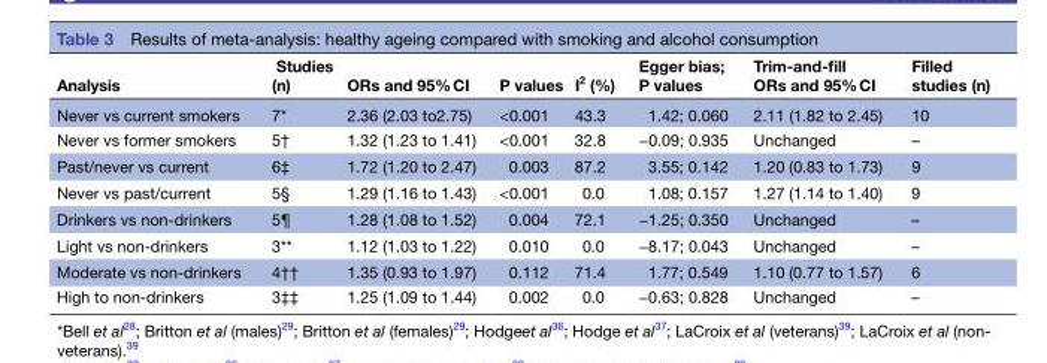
<table><thead><tr><td>Analysis</td><td>Studies (n)</td><td>ORs and 95% CI</td><td>P values</td><td>I<sup>2</sup> (%)</td><td>Egger bias; P values</td><td>Trim-and-fill ORs and 95% CI</td><td>Filled studies (n)</td></tr></thead><tbody><tr><td>Never vs current smokers</td><td>7*</td><td>2.36 (2.03 to2.75)</td><td>&lt;0.001</td><td>43.3</td><td>1.42; 0.060</td><td>2.11 (1.82 to 2.45)</td><td>10</td></tr><tr><td>Never vs former smokers</td><td>5†</td><td>1.32 (1.23 to 1.41)</td><td>&lt;0.001</td><td>32.8</td><td>−0.09; 0.935</td><td>Unchanged</td><td>–</td></tr><tr><td>Past/never vs current</td><td>6‡</td><td>1.72 (1.20 to 2.47)</td><td>0.003</td><td>87.2</td><td>3.55; 0.142</td><td>1.20 (0.83 to 1.73)</td><td>9</td></tr><tr><td>Never vs past/current</td><td>5§</td><td>1.29 (1.16 to 1.43)</td><td>&lt;0.001</td><td>0.0</td><td>1.08; 0.157</td><td>1.27 (1.14 to 1.40)</td><td>9</td></tr><tr><td>Drinkers vs non-drinkers</td><td>5¶</td><td>1.28 (1.08 to 1.52)</td><td>0.004</td><td>72.1</td><td>−1.25; 0.350</td><td>Unchanged</td><td>–</td></tr><tr><td>Light vs non-drinkers</td><td>3**</td><td>1.12 (1.03 to 1.22)</td><td>0.010</td><td>0.0</td><td>−8.17; 0.043</td><td>Unchanged</td><td>–</td></tr><tr><td>Moderate vs non-drinkers</td><td>4††</td><td>1.35 (0.93 to 1.97)</td><td>0.112</td><td>71.4</td><td>1.77; 0.549</td><td>1.10 (0.77 to 1.57)</td><td>6</td></tr><tr><td>High to non-drinkers</td><td>3‡‡</td><td>1.25 (1.09 to 1.44)</td><td>0.002</td><td>0.0</td><td>−0.63; 0.828</td><td>Unchanged</td><td>–</td></tr></tbody></table>